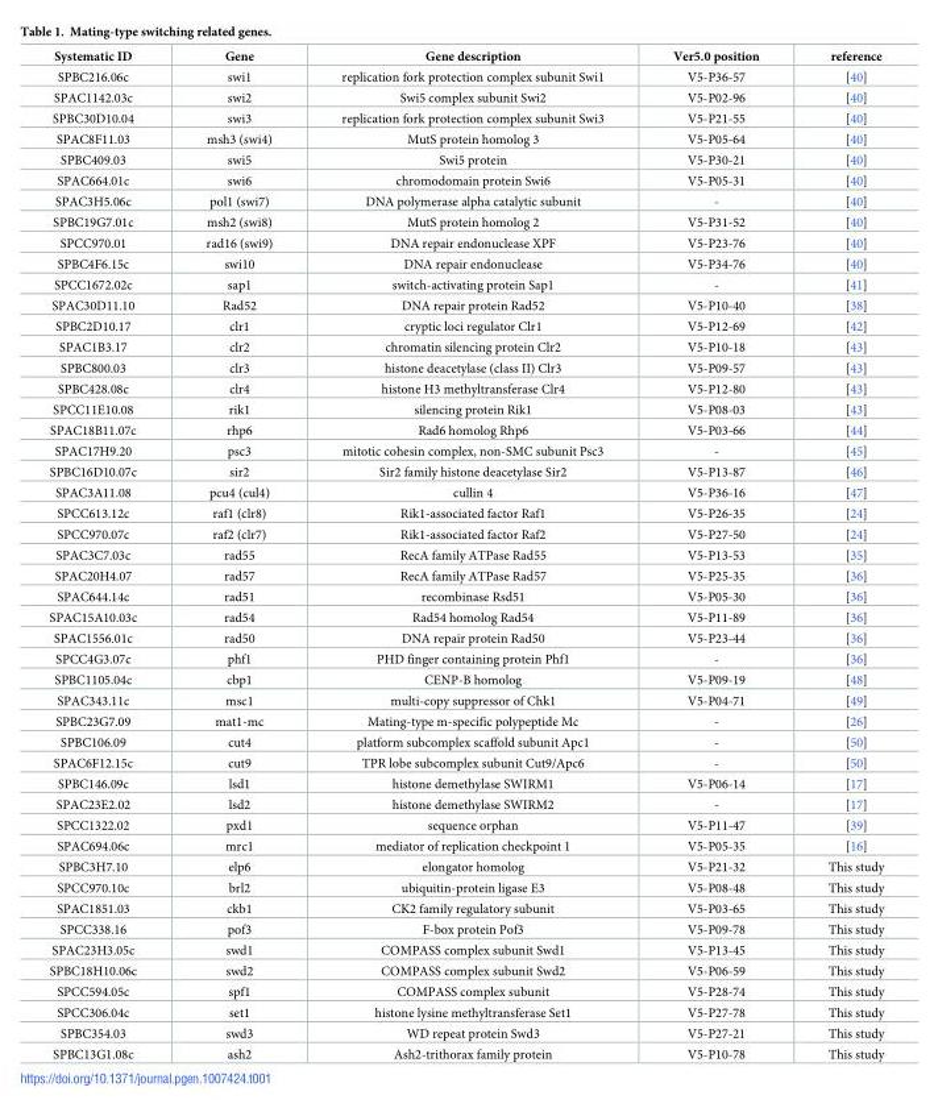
<table><thead><tr><td>Systematic ID</td><td>Gene</td><td>Gene description</td><td>Ver5.0 position</td><td>reference</td></tr></thead><tbody><tr><td>SPBC216.06c</td><td>swi1</td><td>replication fork protection complex subunit Swi1</td><td>V5-P36-57</td><td>[40]</td></tr><tr><td>SPAC1142.03c</td><td>swi2</td><td>Swi5 complex subunit Swi2</td><td>V5-P02-96</td><td>[40]</td></tr><tr><td>SPBC30D10.04</td><td>swi3</td><td>replication fork protection complex subunit Swi3</td><td>V5-P21-55</td><td>[40]</td></tr><tr><td>SPAC8F11.03</td><td>msh3 (swi4)</td><td>MutS protein homolog 3</td><td>V5-P05-64</td><td>[40]</td></tr><tr><td>SPBC409.03</td><td>swi5</td><td>Swi5 protein</td><td>V5-P30-21</td><td>[40]</td></tr><tr><td>SPAC664.01c</td><td>swi6</td><td>chromodomain protein Swi6</td><td>V5-P05-31</td><td>[40]</td></tr><tr><td>SPAC3H5.06c</td><td>pol1 (swi7)</td><td>DNA polymerase alpha catalytic subunit</td><td>-</td><td>[40]</td></tr><tr><td>SPBC19G7.01c</td><td>msh2 (swi8)</td><td>MutS protein homolog 2</td><td>V5-P31-52</td><td>[40]</td></tr><tr><td>SPCC970.01</td><td>rad16 (swi9)</td><td>DNA repair endonuclease XPF</td><td>V5-P23-76</td><td>[40]</td></tr><tr><td>SPBC4F6.15c</td><td>swi10</td><td>DNA repair endonuclease</td><td>V5-P34-76</td><td>[40]</td></tr><tr><td>SPCC1672.02c</td><td>sap1</td><td>switch-activating protein Sap1</td><td>-</td><td>[41]</td></tr><tr><td>SPAC30D11.10</td><td>Rad52</td><td>DNA repair protein Rad52</td><td>V5-P10-40</td><td>[38]</td></tr><tr><td>SPBC2D10.17</td><td>clr1</td><td>cryptic loci regulator Clr1</td><td>V5-P12-69</td><td>[42]</td></tr><tr><td>SPAC1B3.17</td><td>clr2</td><td>chromatin silencing protein Clr2</td><td>V5-P10-18</td><td>[43]</td></tr><tr><td>SPBC800.03</td><td>clr3</td><td>histone deacetylase (class II) Clr3</td><td>V5-P09-57</td><td>[43]</td></tr><tr><td>SPBC428.08c</td><td>clr4</td><td>histone H3 methyltransferase Clr4</td><td>V5-P12-80</td><td>[43]</td></tr><tr><td>SPCC11E10.08</td><td>rik1</td><td>silencing protein Rik1</td><td>V5-P08-03</td><td>[43]</td></tr><tr><td>SPAC18B11.07c</td><td>rhp6</td><td>Rad6 homolog Rhp6</td><td>V5-P03-66</td><td>[44]</td></tr><tr><td>SPAC17H9.20</td><td>psc3</td><td>mitotic cohesin complex, non-SMC subunit Psc3</td><td>-</td><td>[45]</td></tr><tr><td>SPBC16D10.07c</td><td>sir2</td><td>Sir2 family histone deacetylase Sir2</td><td>V5-P13-87</td><td>[46]</td></tr><tr><td>SPAC3A11.08</td><td>pcu4 (cul4)</td><td>cullin 4</td><td>V5-P36-16</td><td>[47]</td></tr><tr><td>SPCC613.12c</td><td>raf1 (clr8)</td><td>Rik1-associated factor Raf1</td><td>V5-P26-35</td><td>[24]</td></tr><tr><td>SPCC970.07c</td><td>raf2 (clr7)</td><td>Rik1-associated factor Raf2</td><td>V5-P27-50</td><td>[24]</td></tr><tr><td>SPAC3C7.03c</td><td>rad55</td><td>RecA family ATPase Rad55</td><td>V5-P13-53</td><td>[35]</td></tr><tr><td>SPAC20H4.07</td><td>rad57</td><td>RecA family ATPase Rad57</td><td>V5-P25-35</td><td>[36]</td></tr><tr><td>SPAC644.14c</td><td>rad51</td><td>recombinase Rsd51</td><td>V5-P05-30</td><td>[36]</td></tr><tr><td>SPAC15A10.03c</td><td>rad54</td><td>Rad54 homolog Rad54</td><td>V5-P11-89</td><td>[36]</td></tr><tr><td>SPAC1556.01c</td><td>rad50</td><td>DNA repair protein Rad50</td><td>V5-P23-44</td><td>[36]</td></tr><tr><td>SPCC4G3.07c</td><td>phf1</td><td>PHD finger containing protein Phf1</td><td>-</td><td>[36]</td></tr><tr><td>SPBC1105.04c</td><td>cbp1</td><td>CENP-B homolog</td><td>V5-P09-19</td><td>[48]</td></tr><tr><td>SPAC343.11c</td><td>msc1</td><td>multi-copy suppressor of Chk1</td><td>V5-P04-71</td><td>[49]</td></tr><tr><td>SPBC23G7.09</td><td>mat1-mc</td><td>Mating-type m-specific polypeptide Mc</td><td>-</td><td>[26]</td></tr><tr><td>SPBC106.09</td><td>cut4</td><td>platform subcomplex scaffold subunit Apc1</td><td>-</td><td>[50]</td></tr><tr><td>SPAC6F12.15c</td><td>cut9</td><td>TPR lobe subcomplex subunit Cut9/Apc6</td><td>-</td><td>[50]</td></tr><tr><td>SPBC146.09c</td><td>lsd1</td><td>histone demethylase SWIRM1</td><td>V5-P06-14</td><td>[17]</td></tr><tr><td>SPAC23E2.02</td><td>lsd2</td><td>histone demethylase SWIRM2</td><td>-</td><td>[17]</td></tr><tr><td>SPCC1322.02</td><td>pxd1</td><td>sequence orphan</td><td>V5-P11-47</td><td>[39]</td></tr><tr><td>SPAC694.06c</td><td>mrc1</td><td>mediator of replication checkpoint 1</td><td>V5-P05-35</td><td>[16]</td></tr><tr><td>SPBC3H7.10</td><td>elp6</td><td>elongator homolog</td><td>V5-P21-32</td><td>This study</td></tr><tr><td>SPCC970.10c</td><td>brl2</td><td>ubiquitin-protein ligase E3</td><td>V5-P08-48</td><td>This study</td></tr><tr><td>SPAC1851.03</td><td>ckb1</td><td>CK2 family regulatory subunit</td><td>V5-P03-65</td><td>This study</td></tr><tr><td>SPCC338.16</td><td>pof3</td><td>F-box protein Pof3</td><td>V5-P09-78</td><td>This study</td></tr><tr><td>SPAC23H3.05c</td><td>swd1</td><td>COMPASS complex subunit Swd1</td><td>V5-P13-45</td><td>This study</td></tr><tr><td>SPBC18H10.06c</td><td>swd2</td><td>COMPASS complex subunit Swd2</td><td>V5-P06-59</td><td>This study</td></tr><tr><td>SPCC594.05c</td><td>spf1</td><td>COMPASS complex subunit</td><td>V5-P28-74</td><td>This study</td></tr><tr><td>SPCC306.04c</td><td>set1</td><td>histone lysine methyltransferase Set1</td><td>V5-P27-78</td><td>This study</td></tr><tr><td>SPBC354.03</td><td>swd3</td><td>WD repeat protein Swd3</td><td>V5-P27-21</td><td>This study</td></tr><tr><td>SPBC13G1.08c</td><td>ash2</td><td>Ash2-trithorax family protein</td><td>V5-P10-78</td><td>This study</td></tr></tbody></table>